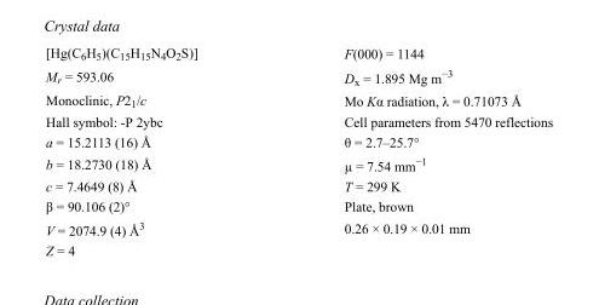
<table><tbody><tr><td>[Hg(C<sub>6</sub>H<sub>5</sub>)(C<sub>15</sub>H<sub>15</sub>N<sub>4</sub>O<sub>2</sub>S)]</td><td>F(000) = 1144</td></tr><tr><td>M<sub>r</sub> = 593.06</td><td>D<sub>x</sub> = 1.895 Mg m<sup>−3</sup></td></tr><tr><td>Monoclinic, P2<sub>1</sub>/c</td><td>Mo Kα radiation, λ = 0.71073 Å</td></tr><tr><td>Hall symbol: -P 2ybc</td><td>Cell parameters from 5470 reflections</td></tr><tr><td>a = 15.2113 (16) Å</td><td>θ = 2.7–25.7°</td></tr><tr><td>b = 18.2730 (18) Å</td><td>µ = 7.54 mm<sup>−1</sup></td></tr><tr><td>c = 7.4649 (8) Å</td><td>T = 299 K</td></tr><tr><td>β = 90.106 (2)°</td><td>Plate, brown</td></tr><tr><td>V = 2074.9 (4) Å<sup>3</sup></td><td>0.26 × 0.19 × 0.01 mm</td></tr><tr><td>Z = 4</td><td></td></tr></tbody></table>